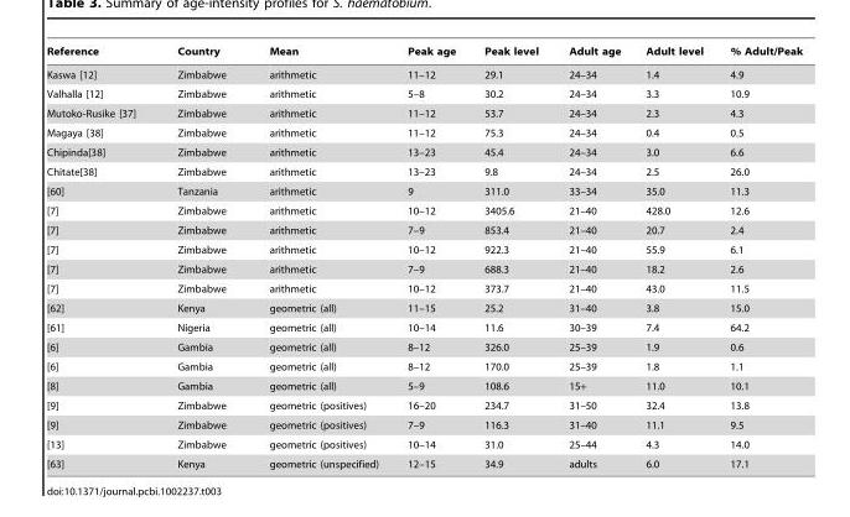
<table><thead><tr><td>Reference</td><td>Country</td><td>Mean</td><td>Peak age</td><td>Peak level</td><td>Adult age</td><td>Adult level</td><td>% Adult/Peak</td></tr></thead><tbody><tr><td>Kaswa [12]</td><td>Zimbabwe</td><td>arithmetic</td><td>11–12</td><td>29.1</td><td>24–34</td><td>1.4</td><td>4.9</td></tr><tr><td>Valhalla [12]</td><td>Zimbabwe</td><td>arithmetic</td><td>5–8</td><td>30.2</td><td>24–34</td><td>3.3</td><td>10.9</td></tr><tr><td>Mutoko-Rusike [37]</td><td>Zimbabwe</td><td>arithmetic</td><td>11–12</td><td>53.7</td><td>24–34</td><td>2.3</td><td>4.3</td></tr><tr><td>Magaya [38]</td><td>Zimbabwe</td><td>arithmetic</td><td>11–12</td><td>75.3</td><td>24–34</td><td>0.4</td><td>0.5</td></tr><tr><td>Chipinda[38]</td><td>Zimbabwe</td><td>arithmetic</td><td>13–23</td><td>45.4</td><td>24–34</td><td>3.0</td><td>6.6</td></tr><tr><td>Chitate[38]</td><td>Zimbabwe</td><td>arithmetic</td><td>13–23</td><td>9.8</td><td>24–34</td><td>2.5</td><td>26.0</td></tr><tr><td>[60]</td><td>Tanzania</td><td>arithmetic</td><td>9</td><td>311.0</td><td>33–34</td><td>35.0</td><td>11.3</td></tr><tr><td>[7]</td><td>Zimbabwe</td><td>arithmetic</td><td>10–12</td><td>3405.6</td><td>21–40</td><td>428.0</td><td>12.6</td></tr><tr><td>[7]</td><td>Zimbabwe</td><td>arithmetic</td><td>7–9</td><td>853.4</td><td>21–40</td><td>20.7</td><td>2.4</td></tr><tr><td>[7]</td><td>Zimbabwe</td><td>arithmetic</td><td>10–12</td><td>922.3</td><td>21–40</td><td>55.9</td><td>6.1</td></tr><tr><td>[7]</td><td>Zimbabwe</td><td>arithmetic</td><td>7–9</td><td>688.3</td><td>21–40</td><td>18.2</td><td>2.6</td></tr><tr><td>[7]</td><td>Zimbabwe</td><td>arithmetic</td><td>10–12</td><td>373.7</td><td>21–40</td><td>43.0</td><td>11.5</td></tr><tr><td>[62]</td><td>Kenya</td><td>geometric (all)</td><td>11–15</td><td>25.2</td><td>31–40</td><td>3.8</td><td>15.0</td></tr><tr><td>[61]</td><td>Nigeria</td><td>geometric (all)</td><td>10–14</td><td>11.6</td><td>30–39</td><td>7.4</td><td>64.2</td></tr><tr><td>[6]</td><td>Gambia</td><td>geometric (all)</td><td>8–12</td><td>326.0</td><td>25–39</td><td>1.9</td><td>0.6</td></tr><tr><td>[6]</td><td>Gambia</td><td>geometric (all)</td><td>8–12</td><td>170.0</td><td>25–39</td><td>1.8</td><td>1.1</td></tr><tr><td>[8]</td><td>Gambia</td><td>geometric (all)</td><td>5–9</td><td>108.6</td><td>15+</td><td>11.0</td><td>10.1</td></tr><tr><td>[9]</td><td>Zimbabwe</td><td>geometric (positives)</td><td>16–20</td><td>234.7</td><td>31–50</td><td>32.4</td><td>13.8</td></tr><tr><td>[9]</td><td>Zimbabwe</td><td>geometric (positives)</td><td>7–9</td><td>116.3</td><td>31–40</td><td>11.1</td><td>9.5</td></tr><tr><td>[13]</td><td>Zimbabwe</td><td>geometric (positives)</td><td>10–14</td><td>31.0</td><td>25–44</td><td>4.3</td><td>14.0</td></tr><tr><td>[63]</td><td>Kenya</td><td>geometric (unspecified)</td><td>12–15</td><td>34.9</td><td>adults</td><td>6.0</td><td>17.1</td></tr></tbody></table>